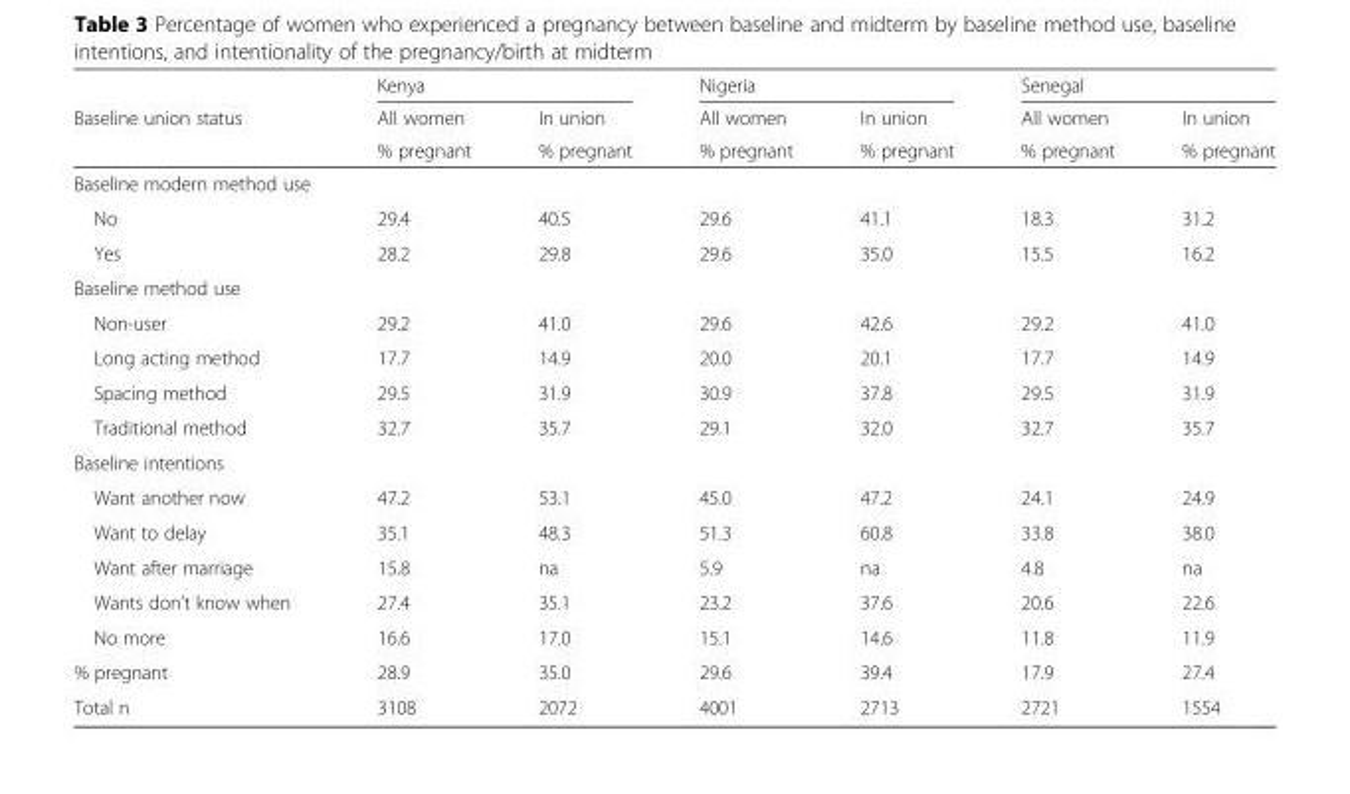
<table><thead><tr><td rowspan="3">Baseline union status</td><td colspan="2">Kenya</td><td colspan="2">Nigeria</td><td colspan="2">Senegal</td></tr><tr><td rowspan="2">All women % pregnant</td><td rowspan="2">In union % pregnant</td><td rowspan="2">All women % pregnant</td><td rowspan="2">In union % pregnant</td><td rowspan="2">All women % pregnant</td><td rowspan="2">In union % pregnant</td></tr><tr></tr></thead><tbody><tr><td colspan="7">Baseline modern method use</td></tr><tr><td>No</td><td>29.4</td><td>40.5</td><td>29.6</td><td>41.1</td><td>18.3</td><td>31.2</td></tr><tr><td>Yes</td><td>28.2</td><td>29.8</td><td>29.6</td><td>35.0</td><td>15.5</td><td>16.2</td></tr><tr><td colspan="7">Baseline method use</td></tr><tr><td>Non-user</td><td>29.2</td><td>41.0</td><td>29.6</td><td>42.6</td><td>29.2</td><td>41.0</td></tr><tr><td>Long acting method</td><td>17.7</td><td>14.9</td><td>20.0</td><td>20.1</td><td>17.7</td><td>14.9</td></tr><tr><td>Spacing method</td><td>29.5</td><td>31.9</td><td>30.9</td><td>37.8</td><td>29.5</td><td>31.9</td></tr><tr><td>Traditional method</td><td>32.7</td><td>35.7</td><td>29.1</td><td>32.0</td><td>32.7</td><td>35.7</td></tr><tr><td colspan="7">Baseline intentions</td></tr><tr><td>Want another now</td><td>47.2</td><td>53.1</td><td>45.0</td><td>47.2</td><td>24.1</td><td>24.9</td></tr><tr><td>Want to delay</td><td>35.1</td><td>48.3</td><td>51.3</td><td>60.8</td><td>33.8</td><td>38.0</td></tr><tr><td>Want after marriage</td><td>15.8</td><td>na</td><td>5.9</td><td>na</td><td>4.8</td><td>na</td></tr><tr><td>Wants don’t know when</td><td>27.4</td><td>35.1</td><td>23.2</td><td>37.6</td><td>20.6</td><td>22.6</td></tr><tr><td>No more</td><td>16.6</td><td>17.0</td><td>15.1</td><td>14.6</td><td>11.8</td><td>11.9</td></tr><tr><td>% pregnant</td><td>28.9</td><td>35.0</td><td>29.6</td><td>39.4</td><td>17.9</td><td>27.4</td></tr><tr><td>Total n</td><td>3108</td><td>2072</td><td>4001</td><td>2713</td><td>2721</td><td>1554</td></tr></tbody></table>